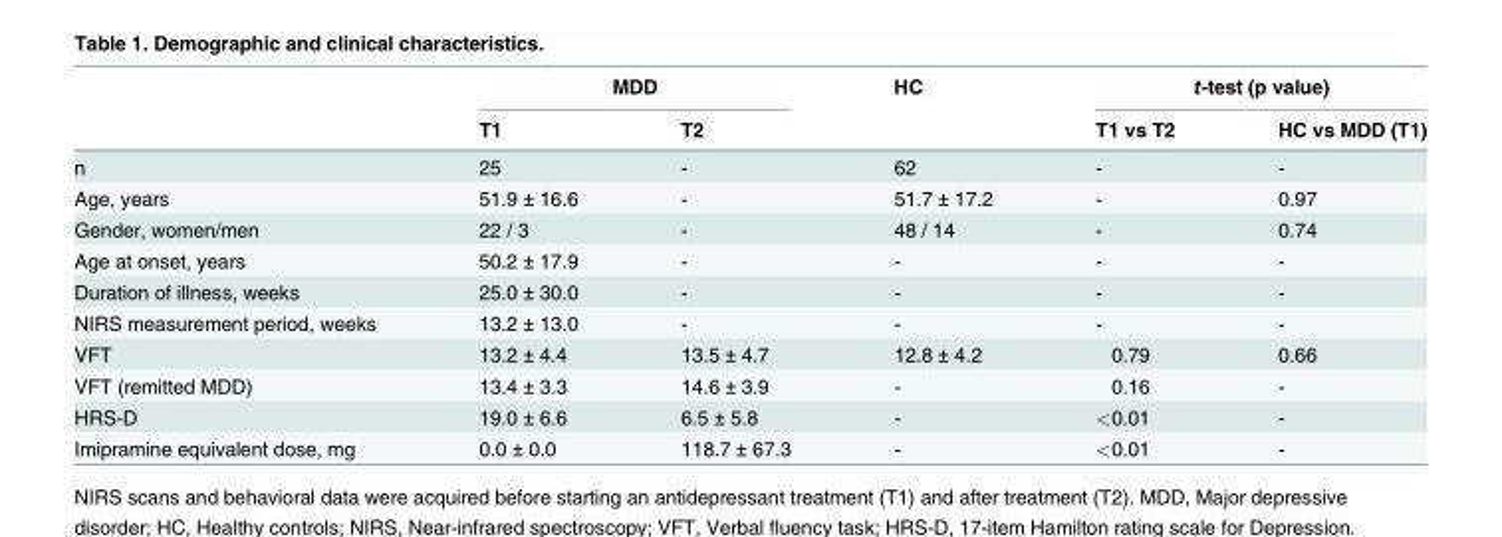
<table><thead><tr><td rowspan="2"></td><td colspan="2">MDD</td><td rowspan="2">HC</td><td colspan="2">t-test (p value)</td></tr><tr><td>T1</td><td>T2</td><td>T1 vs T2</td><td>HC vs MDD (T1)</td></tr></thead><tbody><tr><td>n</td><td>25</td><td>-</td><td>62</td><td>-</td><td>-</td></tr><tr><td>Age, years</td><td>51.9 ± 16.6</td><td>-</td><td>51.7 ± 17.2</td><td>-</td><td>0.97</td></tr><tr><td>Gender, women/men</td><td>22 / 3</td><td>-</td><td>48 / 14</td><td>-</td><td>0.74</td></tr><tr><td>Age at onset, years</td><td>50.2 ± 17.9</td><td>-</td><td>-</td><td>-</td><td>-</td></tr><tr><td>Duration of illness, weeks</td><td>25.0 ± 30.0</td><td>-</td><td>-</td><td>-</td><td>-</td></tr><tr><td>NIRS measurement period, weeks</td><td>13.2 ± 13.0</td><td>-</td><td>-</td><td>-</td><td>-</td></tr><tr><td>VFT</td><td>13.2 ± 4.4</td><td>13.5 ± 4.7</td><td>12.8 ± 4.2</td><td>0.79</td><td>0.66</td></tr><tr><td>VFT (remitted MDD)</td><td>13.4 ± 3.3</td><td>14.6 ± 3.9</td><td>-</td><td>0.16</td><td>-</td></tr><tr><td>HRS-D</td><td>19.0 ± 6.6</td><td>6.5 ± 5.8</td><td>-</td><td>&lt;0.01</td><td>-</td></tr><tr><td>Imipramine equivalent dose, mg</td><td>0.0 ± 0.0</td><td>118.7 ± 67.3</td><td>-</td><td>&lt;0.01</td><td>-</td></tr></tbody></table>